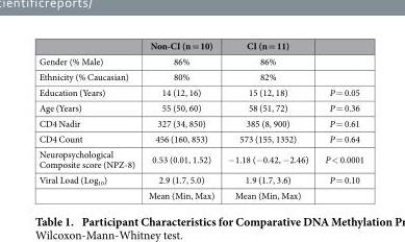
<table><thead><tr><td></td><td>Non-CI (n = 10)</td><td>CI (n = 11)</td><td></td></tr></thead><tbody><tr><td>Gender (% Male)</td><td>86%</td><td>86%</td><td></td></tr><tr><td>Ethnicity (% Caucasian)</td><td>80%</td><td>82%</td><td></td></tr><tr><td>Education (Years)</td><td>14 (12, 16)</td><td>15 (12, 18)</td><td>P = 0.05</td></tr><tr><td>Age (Years)</td><td>55 (50, 60)</td><td>58 (51, 72)</td><td>P = 0.36</td></tr><tr><td>CD4 Nadir</td><td>327 (34, 850)</td><td>385 (8, 900)</td><td>P = 0.61</td></tr><tr><td>CD4 Count</td><td>456 (160, 853)</td><td>573 (155, 1352)</td><td>P = 0.64</td></tr><tr><td>Neuropsychological Composite score (NPZ-8)</td><td>0.53 (0.01, 1.52)</td><td>− 1.18 (− 0.42, − 2.46)</td><td>P &lt; 0.0001</td></tr><tr><td rowspan="2">Viral Load (Log<sub>10</sub>)</td><td>2.9 (1.7, 5.0)</td><td>1.9 (1.7, 3.6)</td><td>P = 0.10</td></tr><tr><td>Mean (Min, Max)</td><td>Mean (Min, Max)</td><td></td></tr></tbody></table>